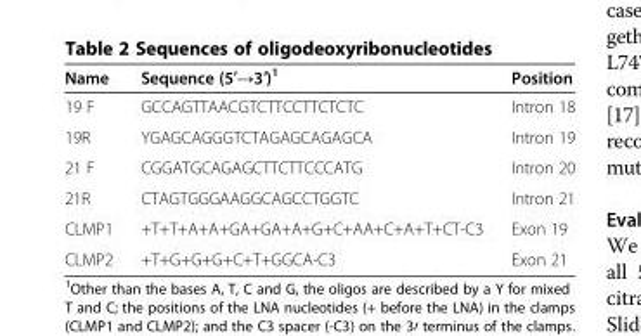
<table><thead><tr><td>Name</td><td>Sequence (5′→3′)<sup>1</sup></td><td>Position</td></tr></thead><tbody><tr><td>19 F</td><td>GCCAGTTAACGTCTTCCTTCTCTC</td><td>Intron 18</td></tr><tr><td>19R</td><td>YGAGCAGGGTCTAGAGCAGAGCA</td><td>Intron 19</td></tr><tr><td>21 F</td><td>CGGATGCAGAGCTTCTTCCCATG</td><td>Intron 20</td></tr><tr><td>21R</td><td>CTAGTGGGAAGGCAGCCTGGTC</td><td>Intron 21</td></tr><tr><td>CLMP1</td><td>+T+T+A+A+GA+GA+A+G+C+AA+C+A+T+CT-C3</td><td>Exon 19</td></tr><tr><td>CLMP2</td><td>+T+G+G+G+C+T+GGCA-C3</td><td>Exon 21</td></tr></tbody></table>